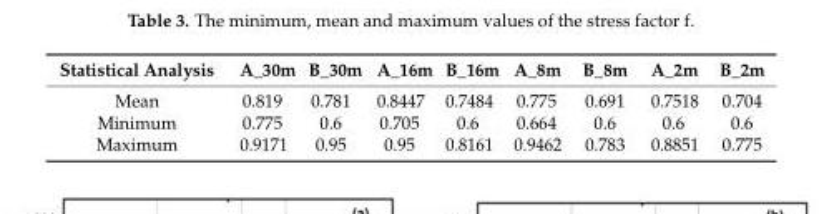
<table><thead><tr><td>Statistical Analysis</td><td>A_30m</td><td>B_30m</td><td>A_16m</td><td>B_16m</td><td>A_8m</td><td>B_8m</td><td>A_2m</td><td>B_2m</td></tr></thead><tbody><tr><td>Mean</td><td>0.819</td><td>0.781</td><td>0.8447</td><td>0.7484</td><td>0.775</td><td>0.691</td><td>0.7518</td><td>0.704</td></tr><tr><td>Minimum</td><td>0.775</td><td>0.6</td><td>0.705</td><td>0.6</td><td>0.664</td><td>0.6</td><td>0.6</td><td>0.6</td></tr><tr><td>Maximum</td><td>0.9171</td><td>0.95</td><td>0.95</td><td>0.8161</td><td>0.9462</td><td>0.783</td><td>0.8851</td><td>0.775</td></tr></tbody></table>